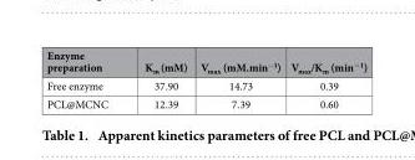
<table><thead><tr><td>Enzyme preparation</td><td>K<sub>m</sub> (mM)</td><td>V<sub>max</sub> (mM.min<sup>−1</sup>)</td><td>V<sub>max</sub>/K<sub>m</sub> (min<sup>−1</sup>)</td></tr></thead><tbody><tr><td>Free enzyme</td><td>37.90</td><td>14.73</td><td>0.39</td></tr><tr><td>PCL@MCNC</td><td>12.39</td><td>7.39</td><td>0.60</td></tr></tbody></table>